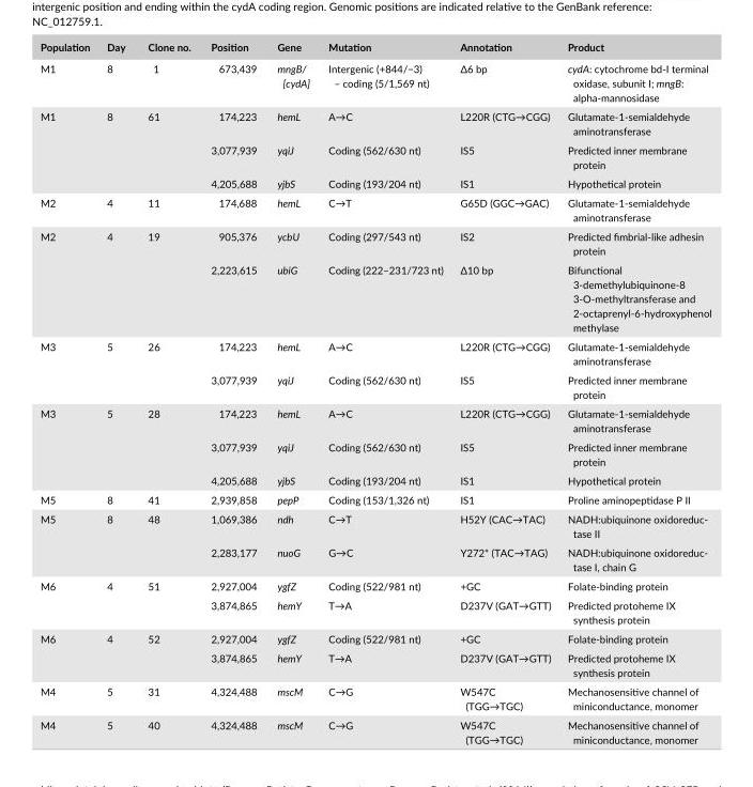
<table><thead><tr><td>Population</td><td>Day</td><td>Clone no.</td><td>Position</td><td>Gene</td><td>Mutation</td><td>Annotation</td><td>Product</td></tr></thead><tbody><tr><td>M1</td><td>8</td><td>1</td><td>673,439</td><td>mngB/ [cydA]</td><td>Intergenic (+844/−3) – coding (5/1,569 nt)</td><td>Δ6 bp</td><td>cydA: cytochrome bd- I terminal oxidase, subunit I; mngB: alpha- mannosidase</td></tr><tr><td rowspan="3">M1</td><td>8</td><td>61</td><td>174,223</td><td>hemL</td><td>A→C</td><td>L220R (CTG→CGG)</td><td>Glutamate- 1- semialdehyde aminotransferase</td></tr><tr><td></td><td></td><td>3,077,939</td><td>yqiJ</td><td>Coding (562/630 nt)</td><td>IS5</td><td>Predicted inner membrane protein</td></tr><tr><td></td><td></td><td>4,205,688</td><td>yjbS</td><td>Coding (193/204 nt)</td><td>IS1</td><td>Hypothetical protein</td></tr><tr><td>M2</td><td>4</td><td>11</td><td>174,688</td><td>hemL</td><td>C→T</td><td>G65D (GGC→GAC)</td><td>Glutamate- 1- semialdehyde aminotransferase</td></tr><tr><td rowspan="2">M2</td><td>4</td><td>19</td><td>905,376</td><td>ycbU</td><td>Coding (297/543 nt)</td><td>IS2</td><td>Predicted fimbrial- like adhesin protein</td></tr><tr><td></td><td></td><td>2,223,615</td><td>ubiG</td><td>Coding (222–231/723 nt)</td><td>Δ10 bp</td><td>Bifunctional 3- demethylubiquinone- 8 3- O- methyltransferase and 2- octaprenyl- 6- hydroxyphenol methylase</td></tr><tr><td rowspan="2">M3</td><td>5</td><td>26</td><td>174,223</td><td>hemL</td><td>A→C</td><td>L220R (CTG→CGG)</td><td>Glutamate- 1- semialdehyde aminotransferase</td></tr><tr><td></td><td></td><td>3,077,939</td><td>yqiJ</td><td>Coding (562/630 nt)</td><td>IS5</td><td>Predicted inner membrane protein</td></tr><tr><td rowspan="3">M3</td><td>5</td><td>28</td><td>174,223</td><td>hemL</td><td>A→C</td><td>L220R (CTG→CGG)</td><td>Glutamate- 1- semialdehyde aminotransferase</td></tr><tr><td></td><td></td><td>3,077,939</td><td>yqiJ</td><td>Coding (562/630 nt)</td><td>IS5</td><td>Predicted inner membrane protein</td></tr><tr><td></td><td></td><td>4,205,688</td><td>yjbS</td><td>Coding (193/204 nt)</td><td>IS1</td><td>Hypothetical protein</td></tr><tr><td>M5</td><td>8</td><td>41</td><td>2,939,858</td><td>pepP</td><td>Coding (153/1,326 nt)</td><td>IS1</td><td>Proline aminopeptidase P II</td></tr><tr><td rowspan="2">M5</td><td>8</td><td>48</td><td>1,069,386</td><td>ndh</td><td>C→T</td><td>H52Y (CAC→TAC)</td><td>NADH:ubiquinone oxidoreduc- tase II</td></tr><tr><td></td><td></td><td>2,283,177</td><td>nuoG</td><td>G→C</td><td>Y272* (TAC→TAG)</td><td>NADH:ubiquinone oxidoreduc- tase I, chain G</td></tr><tr><td rowspan="2">M6</td><td>4</td><td>51</td><td>2,927,004</td><td>ygfZ</td><td>Coding (522/981 nt)</td><td>+GC</td><td>Folate- binding protein</td></tr><tr><td></td><td></td><td>3,874,865</td><td>hemY</td><td>T→A</td><td>D237V (GAT→GTT)</td><td>Predicted protoheme IX synthesis protein</td></tr><tr><td rowspan="2">M6</td><td>4</td><td>52</td><td>2,927,004</td><td>ygfZ</td><td>Coding (522/981 nt)</td><td>+GC</td><td>Folate- binding protein</td></tr><tr><td></td><td></td><td>3,874,865</td><td>hemY</td><td>T→A</td><td>D237V (GAT→GTT)</td><td>Predicted protoheme IX synthesis protein</td></tr><tr><td>M4</td><td>5</td><td>31</td><td>4,324,488</td><td>mscM</td><td>C→G</td><td>W547C (TGG→TGC)</td><td>Mechanosensitive channel of miniconductance, monomer</td></tr><tr><td>M4</td><td>5</td><td>40</td><td>4,324,488</td><td>mscM</td><td>C→G</td><td>W547C (TGG→TGC)</td><td>Mechanosensitive channel of miniconductance, monomer</td></tr></tbody></table>